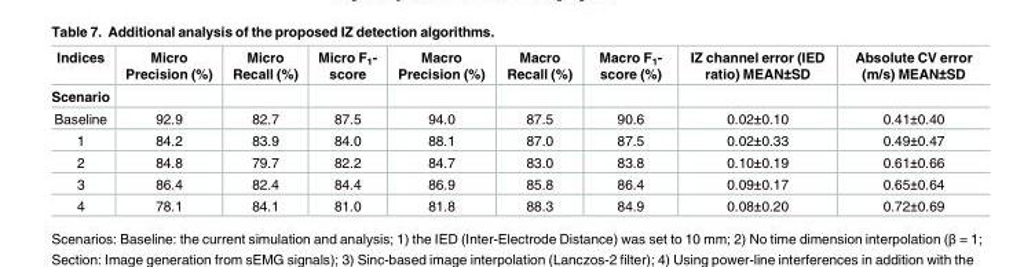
<table><thead><tr><td rowspan="2">Indices Scenario</td><td rowspan="2">Micro Precision (%)</td><td rowspan="2">Micro Recall (%)</td><td rowspan="2">Micro F<sub>1</sub>- score</td><td rowspan="2">Macro Precision (%)</td><td rowspan="2">Macro Recall (%)</td><td rowspan="2">Macro F<sub>1</sub>- score (%)</td><td rowspan="2">IZ channel error (IED ratio) MEAN±SD</td><td rowspan="2">Absolute CV error (m/s) MEAN±SD</td></tr><tr></tr></thead><tbody><tr><td>Baseline</td><td>92.9</td><td>82.7</td><td>87.5</td><td>94.0</td><td>87.5</td><td>90.6</td><td>0.02±0.10</td><td>0.41±0.40</td></tr><tr><td>1</td><td>84.2</td><td>83.9</td><td>84.0</td><td>88.1</td><td>87.0</td><td>87.5</td><td>0.02±0.33</td><td>0.49±0.47</td></tr><tr><td>2</td><td>84.8</td><td>79.7</td><td>82.2</td><td>84.7</td><td>83.0</td><td>83.8</td><td>0.10±0.19</td><td>0.61±0.66</td></tr><tr><td>3</td><td>86.4</td><td>82.4</td><td>84.4</td><td>86.9</td><td>85.8</td><td>86.4</td><td>0.09±0.17</td><td>0.65±0.64</td></tr><tr><td>4</td><td>78.1</td><td>84.1</td><td>81.0</td><td>81.8</td><td>88.3</td><td>84.9</td><td>0.08±0.20</td><td>0.72±0.69</td></tr></tbody></table>